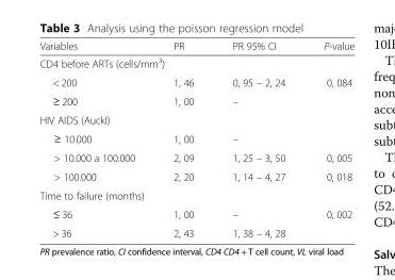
<table><thead><tr><td>Variables</td><td>PR</td><td>PR 95% CI</td><td>P-value</td></tr></thead><tbody><tr><td colspan="4">CD4 before ARTs (cells/mm<sup>3</sup>)</td></tr><tr><td>&lt; 200</td><td>1, 46</td><td>0, 95 – 2, 24</td><td>0, 084</td></tr><tr><td>≥ 200</td><td>1, 00</td><td>–</td><td></td></tr><tr><td colspan="4">HIV AIDS (Auckl)</td></tr><tr><td>≥ 10.000</td><td>1, 00</td><td>–</td><td></td></tr><tr><td>&gt; 10.000 a 100.000</td><td>2, 09</td><td>1, 25 – 3, 50</td><td>0, 005</td></tr><tr><td>&gt; 100.000</td><td>2, 20</td><td>1, 14 – 4, 27</td><td>0, 018</td></tr><tr><td colspan="4">Time to failure (months)</td></tr><tr><td>≤ 36</td><td>1, 00</td><td>–</td><td>0, 002</td></tr><tr><td>&gt; 36</td><td>2, 43</td><td>1, 38 – 4, 28</td><td></td></tr></tbody></table>